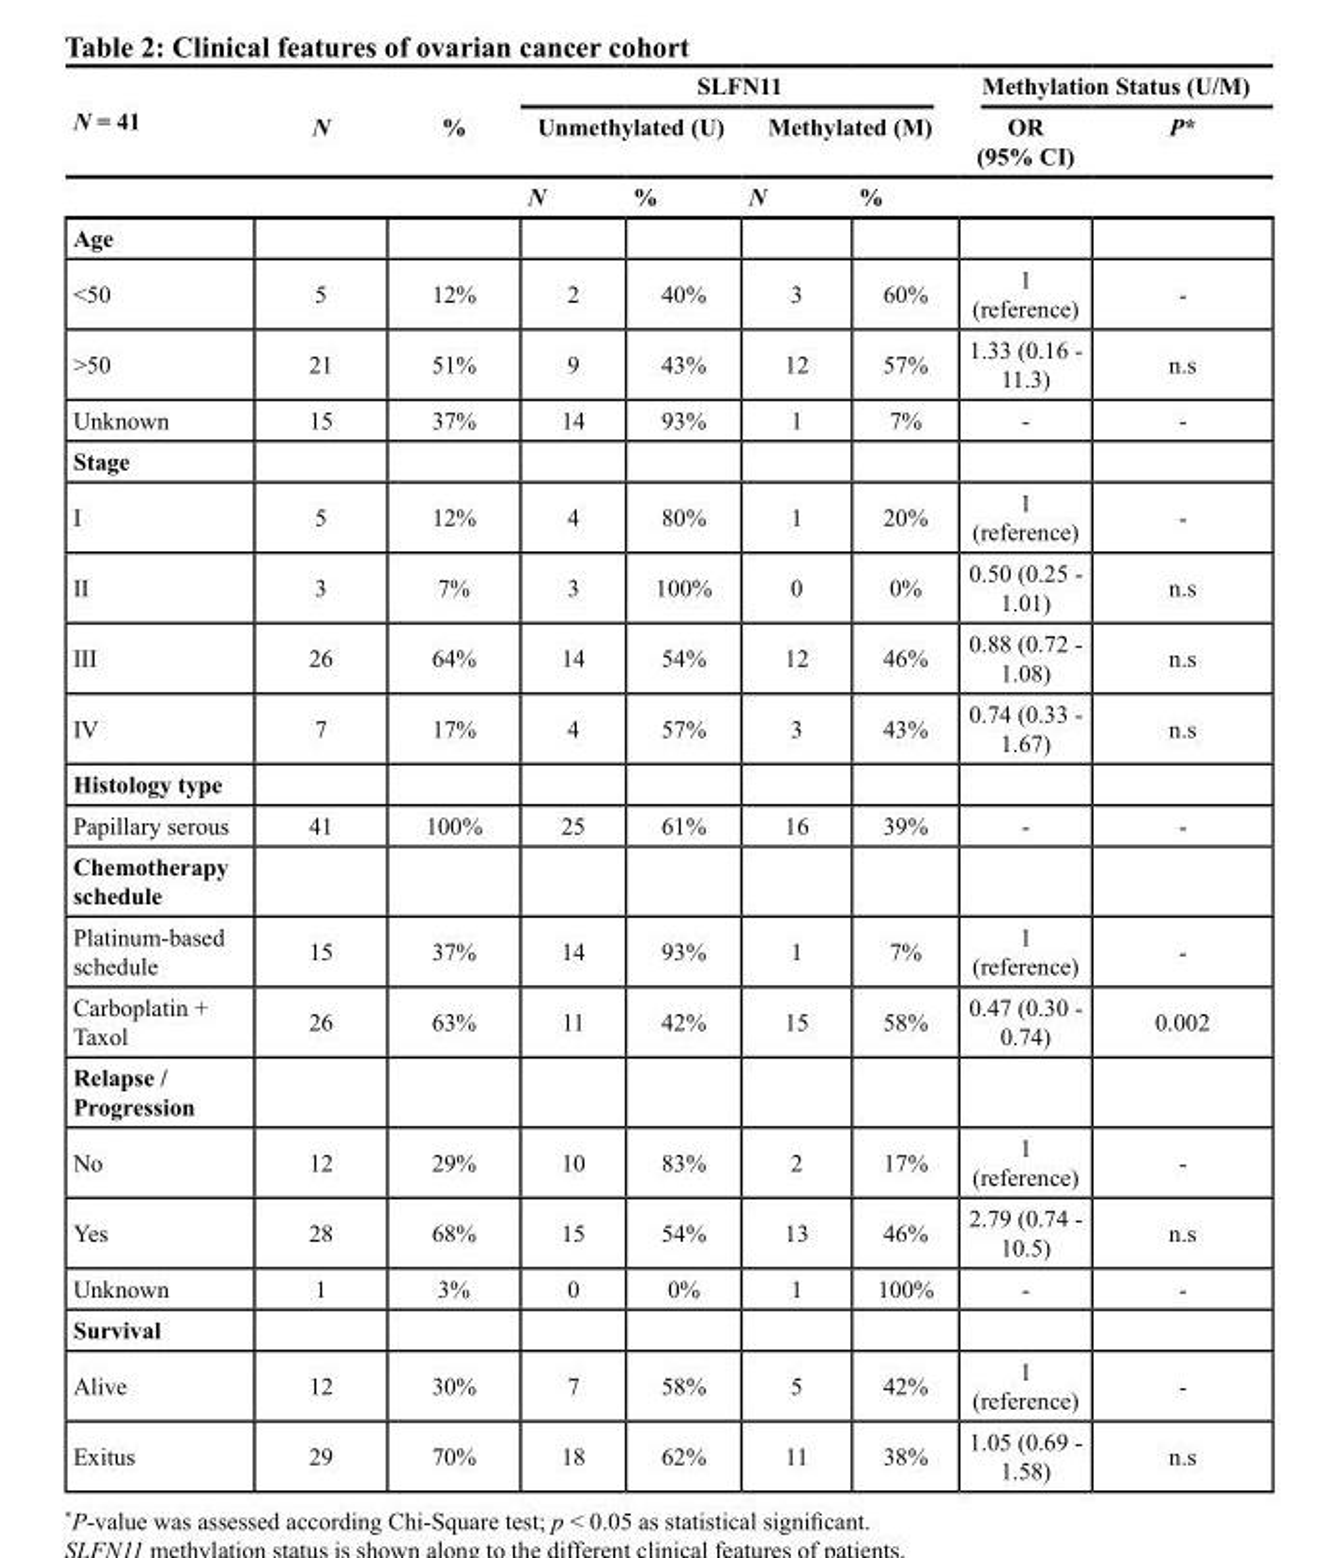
<table><thead><tr><td rowspan="3">N = 41</td><td rowspan="3">N</td><td rowspan="3">%</td><td colspan="4">SLFN11</td><td colspan="2">Methylation Status (U/M)</td></tr><tr><td colspan="2">Unmethylated (U)</td><td colspan="2">Methylated (M)</td><td rowspan="2">OR (95% CI)</td><td rowspan="2">P*</td></tr><tr><td>N</td><td>%</td><td>N</td><td>%</td></tr></thead><tbody><tr><td colspan="9">Age</td></tr><tr><td>&lt;50</td><td>5</td><td>12%</td><td>2</td><td>40%</td><td>3</td><td>60%</td><td>1 (reference)</td><td>-</td></tr><tr><td>&gt;50</td><td>21</td><td>51%</td><td>9</td><td>43%</td><td>12</td><td>57%</td><td>1.33 (0.16 - 11.3)</td><td>n.s</td></tr><tr><td>Unknown</td><td>15</td><td>37%</td><td>14</td><td>93%</td><td>1</td><td>7%</td><td>-</td><td>-</td></tr><tr><td colspan="9">Stage</td></tr><tr><td>I</td><td>5</td><td>12%</td><td>4</td><td>80%</td><td>1</td><td>20%</td><td>1 (reference)</td><td>-</td></tr><tr><td>II</td><td>3</td><td>7%</td><td>3</td><td>100%</td><td>0</td><td>0%</td><td>0.50 (0.25 - 1.01)</td><td>n.s</td></tr><tr><td>III</td><td>26</td><td>64%</td><td>14</td><td>54%</td><td>12</td><td>46%</td><td>0.88 (0.72 - 1.08)</td><td>n.s</td></tr><tr><td>IV</td><td>7</td><td>17%</td><td>4</td><td>57%</td><td>3</td><td>43%</td><td>0.74 (0.33 - 1.67)</td><td>n.s</td></tr><tr><td colspan="9">Histology type</td></tr><tr><td>Papillary serous</td><td>41</td><td>100%</td><td>25</td><td>61%</td><td>16</td><td>39%</td><td>-</td><td>-</td></tr><tr><td colspan="9">Chemotherapy schedule</td></tr><tr><td>Platinum-based schedule</td><td>15</td><td>37%</td><td>14</td><td>93%</td><td>1</td><td>7%</td><td>1 (reference)</td><td>-</td></tr><tr><td>Carboplatin + Taxol</td><td>26</td><td>63%</td><td>11</td><td>42%</td><td>15</td><td>58%</td><td>0.47 (0.30 - 0.74)</td><td>0.002</td></tr><tr><td colspan="9">Relapse / Progression</td></tr><tr><td>No</td><td>12</td><td>29%</td><td>10</td><td>83%</td><td>2</td><td>17%</td><td>1 (reference)</td><td>-</td></tr><tr><td>Yes</td><td>28</td><td>68%</td><td>15</td><td>54%</td><td>13</td><td>46%</td><td>2.79 (0.74 - 10.5)</td><td>n.s</td></tr><tr><td>Unknown</td><td>1</td><td>3%</td><td>0</td><td>0%</td><td>1</td><td>100%</td><td>-</td><td>-</td></tr><tr><td colspan="9">Survival</td></tr><tr><td>Alive</td><td>12</td><td>30%</td><td>7</td><td>58%</td><td>5</td><td>42%</td><td>1 (reference)</td><td>-</td></tr><tr><td>Exitus</td><td>29</td><td>70%</td><td>18</td><td>62%</td><td>11</td><td>38%</td><td>1.05 (0.69 - 1.58)</td><td>n.s</td></tr></tbody></table>